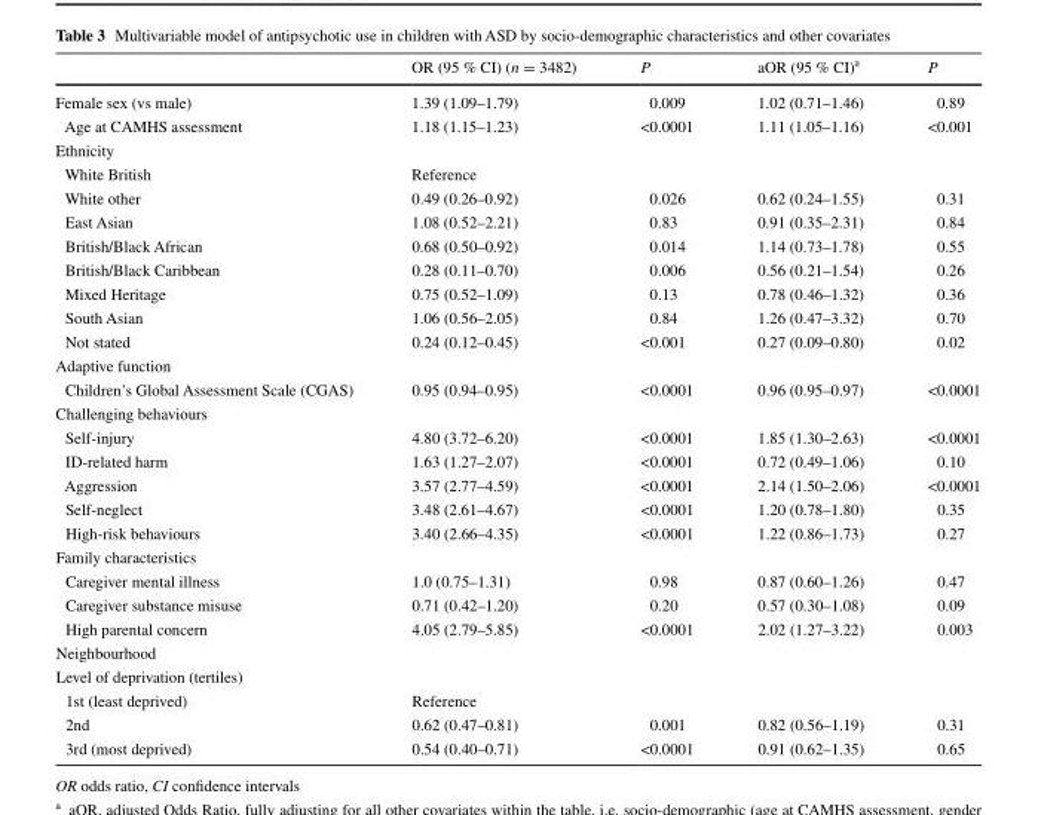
<table><thead><tr><td></td><td>OR (95 % CI) (n = 3482)</td><td>P</td><td>aOR (95 % CI)<sup>a</sup></td><td>P</td></tr></thead><tbody><tr><td>Female sex (vs male)</td><td>1.39 (1.09–1.79)</td><td>0.009</td><td>1.02 (0.71–1.46)</td><td>0.89</td></tr><tr><td>Age at CAMHS assessment</td><td>1.18 (1.15–1.23)</td><td>&lt;0.0001</td><td>1.11 (1.05–1.16)</td><td>&lt;0.001</td></tr><tr><td colspan="5">Ethnicity</td></tr><tr><td>White British</td><td>Reference</td><td></td><td></td><td></td></tr><tr><td>White other</td><td>0.49 (0.26–0.92)</td><td>0.026</td><td>0.62 (0.24–1.55)</td><td>0.31</td></tr><tr><td>East Asian</td><td>1.08 (0.52–2.21)</td><td>0.83</td><td>0.91 (0.35–2.31)</td><td>0.84</td></tr><tr><td>British/Black African</td><td>0.68 (0.50–0.92)</td><td>0.014</td><td>1.14 (0.73–1.78)</td><td>0.55</td></tr><tr><td>British/Black Caribbean</td><td>0.28 (0.11–0.70)</td><td>0.006</td><td>0.56 (0.21–1.54)</td><td>0.26</td></tr><tr><td>Mixed Heritage</td><td>0.75 (0.52–1.09)</td><td>0.13</td><td>0.78 (0.46–1.32)</td><td>0.36</td></tr><tr><td>South Asian</td><td>1.06 (0.56–2.05)</td><td>0.84</td><td>1.26 (0.47–3.32)</td><td>0.70</td></tr><tr><td>Not stated</td><td>0.24 (0.12–0.45)</td><td>&lt;0.001</td><td>0.27 (0.09–0.80)</td><td>0.02</td></tr><tr><td colspan="5">Adaptive function</td></tr><tr><td>Children’s Global Assessment Scale (CGAS)</td><td>0.95 (0.94–0.95)</td><td>&lt;0.0001</td><td>0.96 (0.95–0.97)</td><td>&lt;0.0001</td></tr><tr><td colspan="5">Challenging behaviours</td></tr><tr><td>Self-injury</td><td>4.80 (3.72–6.20)</td><td>&lt;0.0001</td><td>1.85 (1.30–2.63)</td><td>&lt;0.0001</td></tr><tr><td>ID-related harm</td><td>1.63 (1.27–2.07)</td><td>&lt;0.0001</td><td>0.72 (0.49–1.06)</td><td>0.10</td></tr><tr><td>Aggression</td><td>3.57 (2.77–4.59)</td><td>&lt;0.0001</td><td>2.14 (1.50–2.06)</td><td>&lt;0.0001</td></tr><tr><td>Self-neglect</td><td>3.48 (2.61–4.67)</td><td>&lt;0.0001</td><td>1.20 (0.78–1.80)</td><td>0.35</td></tr><tr><td>High-risk behaviours</td><td>3.40 (2.66–4.35)</td><td>&lt;0.0001</td><td>1.22 (0.86–1.73)</td><td>0.27</td></tr><tr><td colspan="5">Family characteristics</td></tr><tr><td>Caregiver mental illness</td><td>1.0 (0.75–1.31)</td><td>0.98</td><td>0.87 (0.60–1.26)</td><td>0.47</td></tr><tr><td>Caregiver substance misuse</td><td>0.71 (0.42–1.20)</td><td>0.20</td><td>0.57 (0.30–1.08)</td><td>0.09</td></tr><tr><td>High parental concern</td><td>4.05 (2.79–5.85)</td><td>&lt;0.0001</td><td>2.02 (1.27–3.22)</td><td>0.003</td></tr><tr><td colspan="5">Neighbourhood</td></tr><tr><td colspan="5">Level of deprivation (tertiles)</td></tr><tr><td>1st (least deprived)</td><td>Reference</td><td></td><td></td><td></td></tr><tr><td>2nd</td><td>0.62 (0.47–0.81)</td><td>0.001</td><td>0.82 (0.56–1.19)</td><td>0.31</td></tr><tr><td>3rd (most deprived)</td><td>0.54 (0.40–0.71)</td><td>&lt;0.0001</td><td>0.91 (0.62–1.35)</td><td>0.65</td></tr></tbody></table>